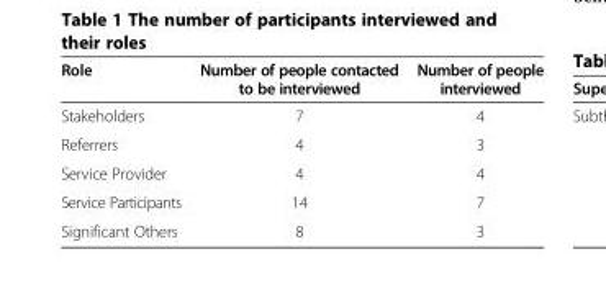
<table><thead><tr><td>Role</td><td>Number of people contacted to be interviewed</td><td>Number of people interviewed</td></tr></thead><tbody><tr><td>Stakeholders</td><td>7</td><td>4</td></tr><tr><td>Referrers</td><td>4</td><td>3</td></tr><tr><td>Service Provider</td><td>4</td><td>4</td></tr><tr><td>Service Participants</td><td>14</td><td>7</td></tr><tr><td>Significant Others</td><td>8</td><td>3</td></tr></tbody></table>